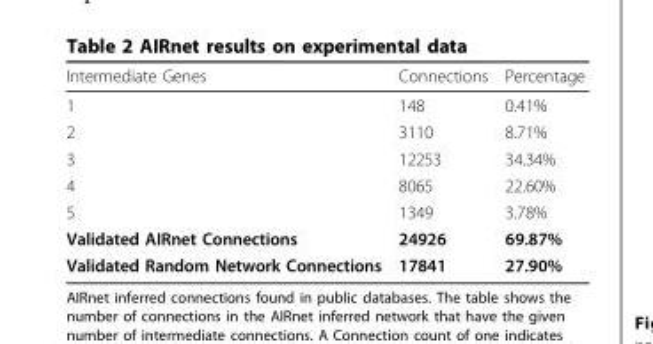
<table><thead><tr><td>Intermediate Genes</td><td>Connections</td><td>Percentage</td></tr></thead><tbody><tr><td>1</td><td>148</td><td>0.41%</td></tr><tr><td>2</td><td>3110</td><td>8.71%</td></tr><tr><td>3</td><td>12253</td><td>34.34%</td></tr><tr><td>4</td><td>8065</td><td>22.60%</td></tr><tr><td>5</td><td>1349</td><td>3.78%</td></tr><tr><td>Validated AIRnet Connections</td><td>24926</td><td>69.87%</td></tr><tr><td>Validated Random Network Connections</td><td>17841</td><td>27.90%</td></tr></tbody></table>